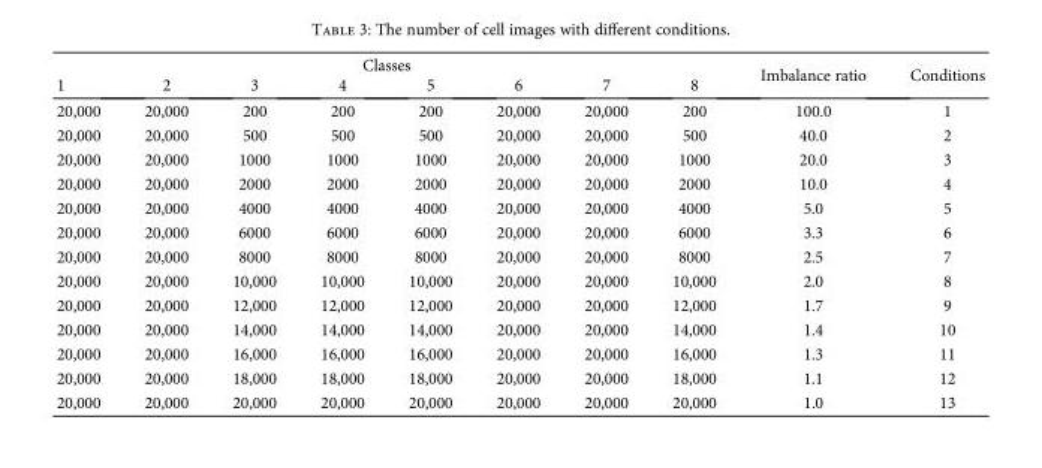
<table><thead><tr><td colspan="8">Classes</td><td rowspan="2">Imbalance ratio</td><td rowspan="2">Conditions</td></tr><tr><td>1</td><td>2</td><td>3</td><td>4</td><td>5</td><td>6</td><td>7</td><td>8</td></tr></thead><tbody><tr><td>20,000</td><td>20,000</td><td>200</td><td>200</td><td>200</td><td>20,000</td><td>20,000</td><td>200</td><td>100.0</td><td>1</td></tr><tr><td>20,000</td><td>20,000</td><td>500</td><td>500</td><td>500</td><td>20,000</td><td>20,000</td><td>500</td><td>40.0</td><td>2</td></tr><tr><td>20,000</td><td>20,000</td><td>1000</td><td>1000</td><td>1000</td><td>20,000</td><td>20,000</td><td>1000</td><td>20.0</td><td>3</td></tr><tr><td>20,000</td><td>20,000</td><td>2000</td><td>2000</td><td>2000</td><td>20,000</td><td>20,000</td><td>2000</td><td>10.0</td><td>4</td></tr><tr><td>20,000</td><td>20,000</td><td>4000</td><td>4000</td><td>4000</td><td>20,000</td><td>20,000</td><td>4000</td><td>5.0</td><td>5</td></tr><tr><td>20,000</td><td>20,000</td><td>6000</td><td>6000</td><td>6000</td><td>20,000</td><td>20,000</td><td>6000</td><td>3.3</td><td>6</td></tr><tr><td>20,000</td><td>20,000</td><td>8000</td><td>8000</td><td>8000</td><td>20,000</td><td>20,000</td><td>8000</td><td>2.5</td><td>7</td></tr><tr><td>20,000</td><td>20,000</td><td>10,000</td><td>10,000</td><td>10,000</td><td>20,000</td><td>20,000</td><td>10,000</td><td>2.0</td><td>8</td></tr><tr><td>20,000</td><td>20,000</td><td>12,000</td><td>12,000</td><td>12,000</td><td>20,000</td><td>20,000</td><td>12,000</td><td>1.7</td><td>9</td></tr><tr><td>20,000</td><td>20,000</td><td>14,000</td><td>14,000</td><td>14,000</td><td>20,000</td><td>20,000</td><td>14,000</td><td>1.4</td><td>10</td></tr><tr><td>20,000</td><td>20,000</td><td>16,000</td><td>16,000</td><td>16,000</td><td>20,000</td><td>20,000</td><td>16,000</td><td>1.3</td><td>11</td></tr><tr><td>20,000</td><td>20,000</td><td>18,000</td><td>18,000</td><td>18,000</td><td>20,000</td><td>20,000</td><td>18,000</td><td>1.1</td><td>12</td></tr><tr><td>20,000</td><td>20,000</td><td>20,000</td><td>20,000</td><td>20,000</td><td>20,000</td><td>20,000</td><td>20,000</td><td>1.0</td><td>13</td></tr></tbody></table>